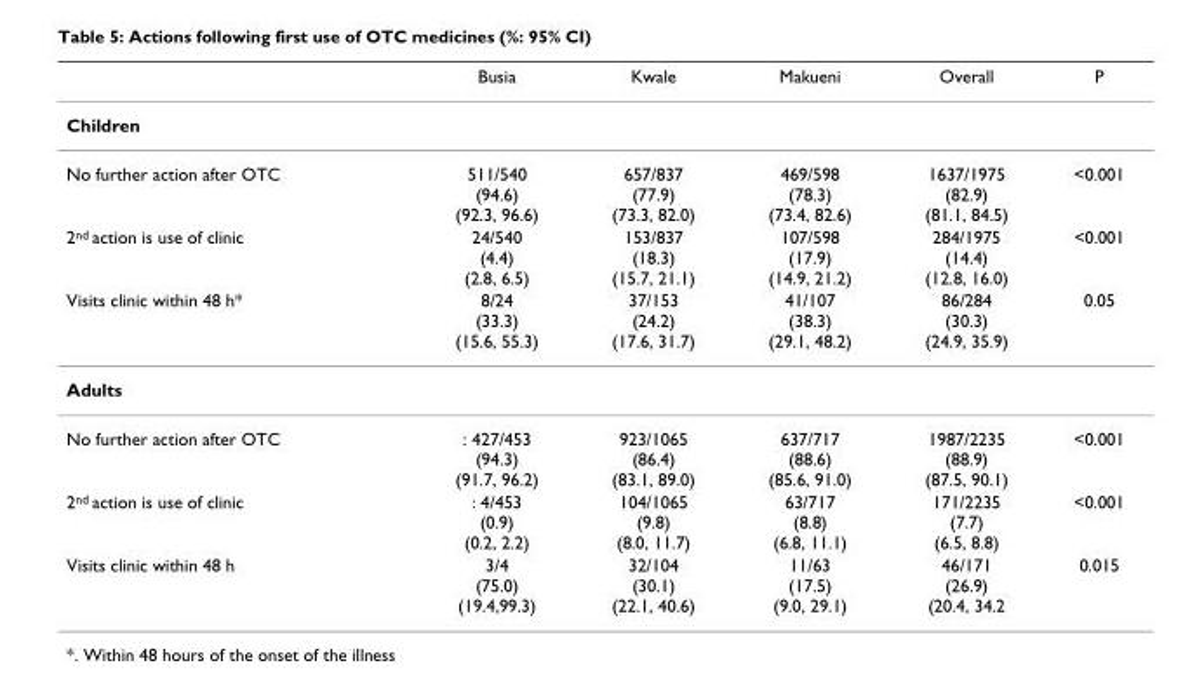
<table><thead><tr><td></td><td>Busia</td><td>Kwale</td><td>Makueni</td><td>Overall</td><td>P</td></tr></thead><tbody><tr><td colspan="6">Children</td></tr><tr><td>No further action after OTC</td><td>511/540 (94.6) (92.3, 96.6)</td><td>657/837 (77.9) (73.3, 82.0)</td><td>469/598 (78.3) (73.4, 82.6)</td><td>1637/1975 (82.9) (81.1, 84.5)</td><td>&lt;0.001</td></tr><tr><td>2<sup>nd</sup> action is use of clinic</td><td>24/540 (4.4) (2.8, 6.5)</td><td>153/837 (18.3) (15.7, 21.1)</td><td>107/598 (17.9) (14.9, 21.2)</td><td>284/1975 (14.4) (12.8, 16.0)</td><td>&lt;0.001</td></tr><tr><td>Visits clinic within 48 h*</td><td>8/24 (33.3) (15.6, 55.3)</td><td>37/153 (24.2) (17.6, 31.7)</td><td>41/107 (38.3) (29.1, 48.2)</td><td>86/284 (30.3) (24.9, 35.9)</td><td>0.05</td></tr><tr><td colspan="6">Adults</td></tr><tr><td>No further action after OTC</td><td>: 427/453 (94.3) (91.7, 96.2)</td><td>923/1065 (86.4) (83.1, 89.0)</td><td>637/717 (88.6) (85.6, 91.0)</td><td>1987/2235 (88.9) (87.5, 90.1)</td><td>&lt;0.001</td></tr><tr><td>2<sup>nd</sup> action is use of clinic</td><td>: 4/453 (0.9) (0.2, 2.2)</td><td>104/1065 (9.8) (8.0, 11.7)</td><td>63/717 (8.8) (6.8, 11.1)</td><td>171/2235 (7.7) (6.5, 8.8)</td><td>&lt;0.001</td></tr><tr><td>Visits clinic within 48 h</td><td>3/4 (75.0) (19.4,99.3)</td><td>32/104 (30.1) (22.1, 40.6)</td><td>11/63 (17.5) (9.0, 29.1)</td><td>46/171 (26.9) (20.4, 34.2</td><td>0.015</td></tr></tbody></table>